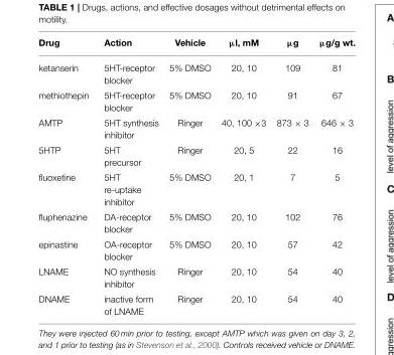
<table><thead><tr><td>Drug</td><td>Action</td><td>Vehicle</td><td>µl, mM</td><td>µg</td><td>µg/g wt.</td></tr></thead><tbody><tr><td>ketanserin</td><td>5HT-receptor blocker</td><td>5% DMSO</td><td>20, 10</td><td>109</td><td>81</td></tr><tr><td>methiothepin</td><td>5HT-receptor blocker</td><td>5% DMSO</td><td>20, 10</td><td>91</td><td>67</td></tr><tr><td>AMTP</td><td>5HT synthesis inhibitor</td><td>Ringer</td><td>40, 100 ×3</td><td>873 × 3</td><td>646 × 3</td></tr><tr><td>5HTP</td><td>5HT precursor</td><td>Ringer</td><td>20, 5</td><td>22</td><td>16</td></tr><tr><td>fluoxetine</td><td>5HT re-uptake inhibitor</td><td>5% DMSO</td><td>20, 1</td><td>7</td><td>5</td></tr><tr><td>fluphenazine</td><td>DA-receptor blocker</td><td>5% DMSO</td><td>20, 10</td><td>102</td><td>76</td></tr><tr><td>epinastine</td><td>OA-receptor blocker</td><td>5% DMSO</td><td>20, 10</td><td>57</td><td>42</td></tr><tr><td>LNAME</td><td>NO synthesis inhibitor</td><td>Ringer</td><td>20, 10</td><td>54</td><td>40</td></tr><tr><td>DNAME</td><td>inactive form of LNAME</td><td>Ringer</td><td>20, 10</td><td>54</td><td>40</td></tr></tbody></table>